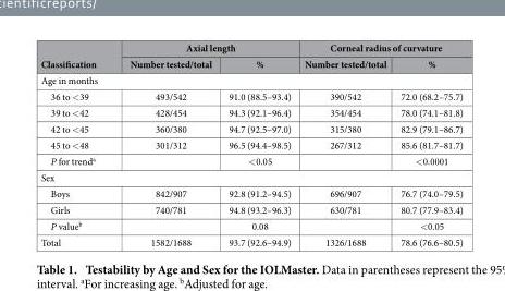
<table><thead><tr><td rowspan="2">Classification</td><td colspan="2">Axial length</td><td colspan="2">Corneal radius of curvature</td></tr><tr><td>Number tested/total</td><td>%</td><td>Number tested/total</td><td>%</td></tr></thead><tbody><tr><td colspan="5">Age in months</td></tr><tr><td>36 to &lt; 39</td><td>493/542</td><td>91.0 (88.5–93.4)</td><td>390/542</td><td>72.0 (68.2–75.7)</td></tr><tr><td>39 to &lt; 42</td><td>428/454</td><td>94.3 (92.1–96.4)</td><td>354/454</td><td>78.0 (74.1–81.8)</td></tr><tr><td>42 to &lt; 45</td><td>360/380</td><td>94.7 (92.5–97.0)</td><td>315/380</td><td>82.9 (79.1–86.7)</td></tr><tr><td>45 to &lt; 48</td><td>301/312</td><td>96.5 (94.4–98.5)</td><td>267/312</td><td>85.6 (81.7–81.7)</td></tr><tr><td>P for trend<sup>a</sup></td><td></td><td>&lt; 0.05</td><td></td><td>&lt; 0.0001</td></tr><tr><td colspan="5">Sex</td></tr><tr><td>Boys</td><td>842/907</td><td>92.8 (91.2–94.5)</td><td>696/907</td><td>76.7 (74.0–79.5)</td></tr><tr><td>Girls</td><td>740/781</td><td>94.8 (93.2–96.3)</td><td>630/781</td><td>80.7 (77.9–83.4)</td></tr><tr><td>P value<sup>b</sup></td><td></td><td>0.08</td><td></td><td>&lt; 0.05</td></tr><tr><td>Total</td><td>1582/1688</td><td>93.7 (92.6–94.9)</td><td>1326/1688</td><td>78.6 (76.6–80.5)</td></tr></tbody></table>